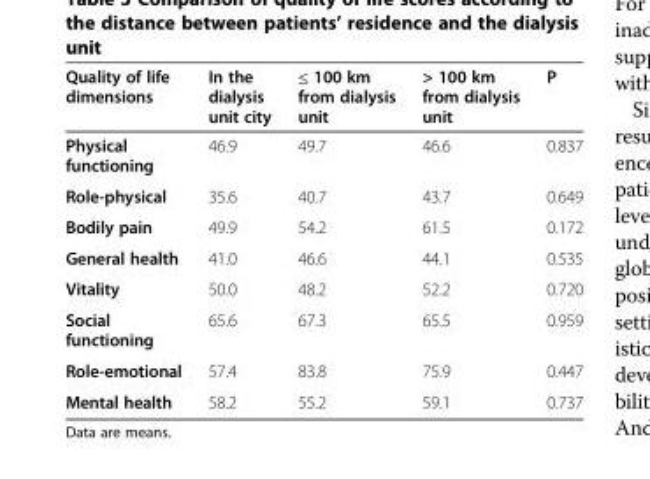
<table><thead><tr><td>Quality of life dimensions</td><td>In the dialysis unit city</td><td>≤ 100 km from dialysis unit</td><td>&gt; 100 km from dialysis unit</td><td>P</td></tr></thead><tbody><tr><td>Physical functioning</td><td>46.9</td><td>49.7</td><td>46.6</td><td>0.837</td></tr><tr><td>Role-physical</td><td>35.6</td><td>40.7</td><td>43.7</td><td>0.649</td></tr><tr><td>Bodily pain</td><td>49.9</td><td>54.2</td><td>61.5</td><td>0.172</td></tr><tr><td>General health</td><td>41.0</td><td>46.6</td><td>44.1</td><td>0.535</td></tr><tr><td>Vitality</td><td>50.0</td><td>48.2</td><td>52.2</td><td>0.720</td></tr><tr><td>Social functioning</td><td>65.6</td><td>67.3</td><td>65.5</td><td>0.959</td></tr><tr><td>Role-emotional</td><td>57.4</td><td>83.8</td><td>75.9</td><td>0.447</td></tr><tr><td>Mental health</td><td>58.2</td><td>55.2</td><td>59.1</td><td>0.737</td></tr></tbody></table>